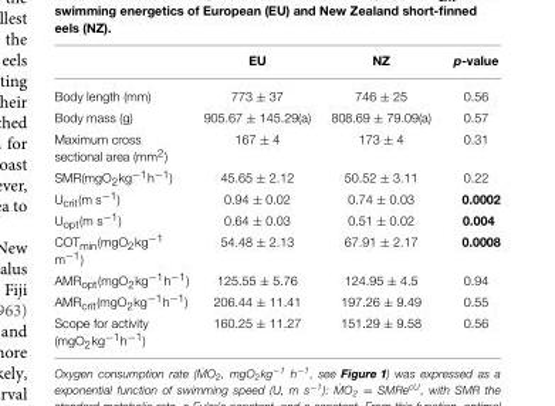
<table><thead><tr><td></td><td>EU</td><td>NZ</td><td>p-value</td></tr></thead><tbody><tr><td>Body length (mm)</td><td>773 ± 37</td><td>746 ± 25</td><td>0.56</td></tr><tr><td>Body mass (g)</td><td>905.67 ± 145.29(a)</td><td>808.69 ± 79.09(a)</td><td>0.57</td></tr><tr><td>Maximum cross sectional area (mm<sup>2</sup>)</td><td>167 ± 4</td><td>173 ± 4</td><td>0.31</td></tr><tr><td>SMR(mgO<sub>2</sub>kg<sup>−1</sup>h<sup>−1</sup>)</td><td>45.65 ± 2.12</td><td>50.52 ± 3.11</td><td>0.22</td></tr><tr><td>U<sub>crit</sub>(m s<sup>−1</sup>)</td><td>0.94 ± 0.02</td><td>0.74 ± 0.03</td><td>0.0002</td></tr><tr><td>U<sub>opt</sub>(m s<sup>−1</sup>)</td><td>0.64 ± 0.03</td><td>0.51 ± 0.02</td><td>0.004</td></tr><tr><td>COT<sub>min</sub>(mgO<sub>2</sub>kg<sup>−1</sup> m<sup>−1</sup>)</td><td>54.48 ± 2.13</td><td>67.91 ± 2.17</td><td>0.0008</td></tr><tr><td>AMR<sub>opt</sub>(mgO<sub>2</sub>kg<sup>−1</sup>h<sup>−1</sup>)</td><td>125.55 ± 5.76</td><td>124.95 ± 4.5</td><td>0.94</td></tr><tr><td>AMR<sub>crit</sub>(mgO<sub>2</sub>kg<sup>−1</sup>h<sup>−1</sup>)</td><td>206.44 ± 11.41</td><td>197.26 ± 9.49</td><td>0.55</td></tr><tr><td>Scope for activity (mgO<sub>2</sub>kg<sup>−1</sup>h<sup>−1</sup>)</td><td>160.25 ± 11.27</td><td>151.29 ± 9.58</td><td>0.56</td></tr></tbody></table>